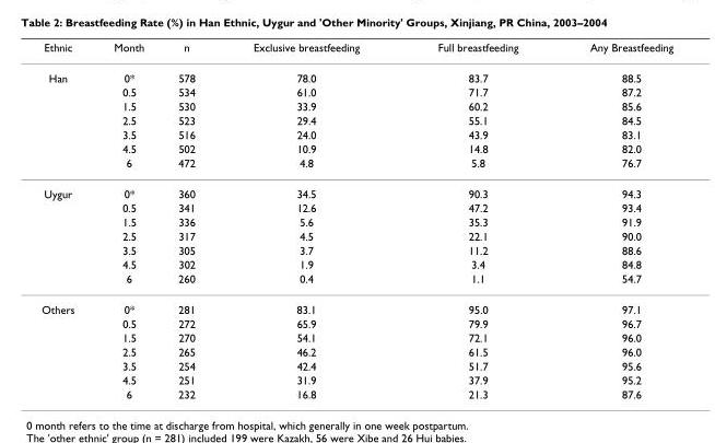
<table><thead><tr><td>Ethnic</td><td>Month</td><td>n</td><td>Exclusive breastfeeding</td><td>Full breastfeeding</td><td>Any Breastfeeding</td></tr></thead><tbody><tr><td rowspan="7">Han</td><td>0*</td><td>578</td><td>78.0</td><td>83.7</td><td>88.5</td></tr><tr><td>0.5</td><td>534</td><td>61.0</td><td>71.7</td><td>87.2</td></tr><tr><td>1.5</td><td>530</td><td>33.9</td><td>60.2</td><td>85.6</td></tr><tr><td>2.5</td><td>523</td><td>29.4</td><td>55.1</td><td>84.5</td></tr><tr><td>3.5</td><td>516</td><td>24.0</td><td>43.9</td><td>83.1</td></tr><tr><td>4.5</td><td>502</td><td>10.9</td><td>14.8</td><td>82.0</td></tr><tr><td>6</td><td>472</td><td>4.8</td><td>5.8</td><td>76.7</td></tr><tr><td rowspan="7">Uygur</td><td>0*</td><td>360</td><td>34.5</td><td>90.3</td><td>94.3</td></tr><tr><td>0.5</td><td>341</td><td>12.6</td><td>47.2</td><td>93.4</td></tr><tr><td>1.5</td><td>336</td><td>5.6</td><td>35.3</td><td>91.9</td></tr><tr><td>2.5</td><td>317</td><td>4.5</td><td>22.1</td><td>90.0</td></tr><tr><td>3.5</td><td>305</td><td>3.7</td><td>11.2</td><td>88.6</td></tr><tr><td>4.5</td><td>302</td><td>1.9</td><td>3.4</td><td>84.8</td></tr><tr><td>6</td><td>260</td><td>0.4</td><td>1.1</td><td>54.7</td></tr><tr><td rowspan="7">Others</td><td>0*</td><td>281</td><td>83.1</td><td>95.0</td><td>97.1</td></tr><tr><td>0.5</td><td>272</td><td>65.9</td><td>79.9</td><td>96.7</td></tr><tr><td>1.5</td><td>270</td><td>54.1</td><td>72.1</td><td>96.0</td></tr><tr><td>2.5</td><td>265</td><td>46.2</td><td>61.5</td><td>96.0</td></tr><tr><td>3.5</td><td>254</td><td>42.4</td><td>51.7</td><td>95.6</td></tr><tr><td>4.5</td><td>251</td><td>31.9</td><td>37.9</td><td>95.2</td></tr><tr><td>6</td><td>232</td><td>16.8</td><td>21.3</td><td>87.6</td></tr></tbody></table>